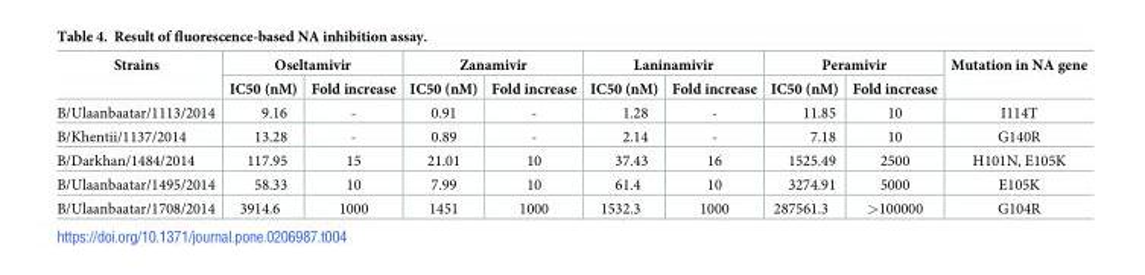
<table><thead><tr><td rowspan="2">Strains</td><td colspan="2">Oseltamivir</td><td colspan="2">Zanamivir</td><td colspan="2">Laninamivir</td><td colspan="2">Peramivir</td><td rowspan="2">Mutation in NA gene</td></tr><tr><td>IC50 (nM)</td><td>Fold increase</td><td>IC50 (nM)</td><td>Fold increase</td><td>IC50 (nM)</td><td>Fold increase</td><td>IC50 (nM)</td><td>Fold increase</td></tr></thead><tbody><tr><td>B/Ulaanbaatar/1113/2014</td><td>9.16</td><td>-</td><td>0.91</td><td>-</td><td>1.28</td><td>-</td><td>11.85</td><td>10</td><td>I114T</td></tr><tr><td>B/Khentii/1137/2014</td><td>13.28</td><td>-</td><td>0.89</td><td>-</td><td>2.14</td><td>-</td><td>7.18</td><td>10</td><td>G140R</td></tr><tr><td>B/Darkhan/1484/2014</td><td>117.95</td><td>15</td><td>21.01</td><td>10</td><td>37.43</td><td>16</td><td>1525.49</td><td>2500</td><td>H101N, E105K</td></tr><tr><td>B/Ulaanbaatar/1495/2014</td><td>58.33</td><td>10</td><td>7.99</td><td>10</td><td>61.4</td><td>10</td><td>3274.91</td><td>5000</td><td>E105K</td></tr><tr><td>B/Ulaanbaatar/1708/2014</td><td>3914.6</td><td>1000</td><td>1451</td><td>1000</td><td>1532.3</td><td>1000</td><td>287561.3</td><td>&gt;100000</td><td>G104R</td></tr></tbody></table>